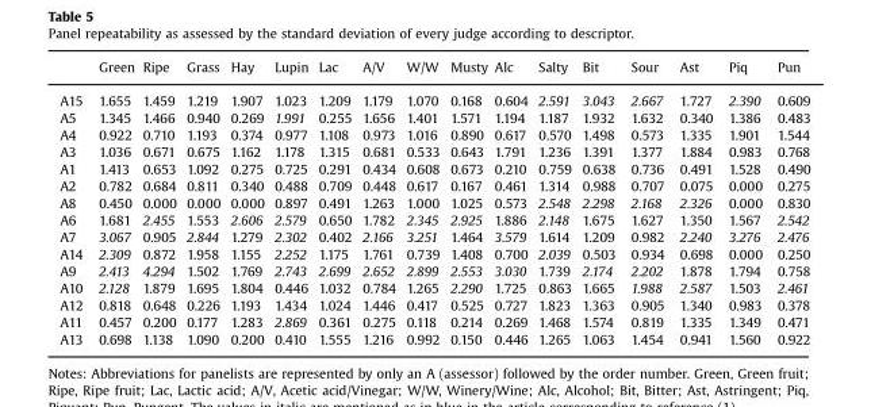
<table><thead><tr><td></td><td>Green</td><td>Ripe</td><td>Grass</td><td>Hay</td><td>Lupin</td><td>Lac</td><td>A/V</td><td>W/W</td><td>Musty</td><td>Alc</td><td>Salty</td><td>Bit</td><td>Sour</td><td>Ast</td><td>Piq</td><td>Pun</td></tr></thead><tbody><tr><td>A15</td><td>1.655</td><td>1.459</td><td>1.219</td><td>1.907</td><td>1.023</td><td>1.209</td><td>1.179</td><td>1.070</td><td>0.168</td><td>0.604</td><td>2.591</td><td>3.043</td><td>2.667</td><td>1.727</td><td>2.390</td><td>0.609</td></tr><tr><td>A5</td><td>1.345</td><td>1.466</td><td>0.940</td><td>0.269</td><td>1.991</td><td>0.255</td><td>1.656</td><td>1.401</td><td>1.571</td><td>1.194</td><td>1.187</td><td>1.932</td><td>1.632</td><td>0.340</td><td>1.386</td><td>0.483</td></tr><tr><td>A4</td><td>0.922</td><td>0.710</td><td>1.193</td><td>0.374</td><td>0.977</td><td>1.108</td><td>0.973</td><td>1.016</td><td>0.890</td><td>0.617</td><td>0.570</td><td>1.498</td><td>0.573</td><td>1.335</td><td>1.901</td><td>1.544</td></tr><tr><td>A3</td><td>1.036</td><td>0.671</td><td>0.675</td><td>1.162</td><td>1.178</td><td>1.315</td><td>0.681</td><td>0.533</td><td>0.643</td><td>1.791</td><td>1.236</td><td>1.391</td><td>1.377</td><td>1.884</td><td>0.983</td><td>0.768</td></tr><tr><td>A1</td><td>1.413</td><td>0.653</td><td>1.092</td><td>0.275</td><td>0.725</td><td>0.291</td><td>0.434</td><td>0.608</td><td>0.673</td><td>0.210</td><td>0.759</td><td>0.638</td><td>0.736</td><td>0.491</td><td>1.528</td><td>0.490</td></tr><tr><td>A2</td><td>0.782</td><td>0.684</td><td>0.811</td><td>0.340</td><td>0.488</td><td>0.709</td><td>0.448</td><td>0.617</td><td>0.167</td><td>0.461</td><td>1.314</td><td>0.988</td><td>0.707</td><td>0.075</td><td>0.000</td><td>0.275</td></tr><tr><td>A8</td><td>0.450</td><td>0.000</td><td>0.000</td><td>0.000</td><td>0.897</td><td>0.491</td><td>1.263</td><td>1.000</td><td>1.025</td><td>0.573</td><td>2.548</td><td>2.298</td><td>2.168</td><td>2.326</td><td>0.000</td><td>0.830</td></tr><tr><td>A6</td><td>1.681</td><td>2.455</td><td>1.553</td><td>2.606</td><td>2.579</td><td>0.650</td><td>1.782</td><td>2.345</td><td>2.925</td><td>1.886</td><td>2.148</td><td>1.675</td><td>1.627</td><td>1.350</td><td>1.567</td><td>2.542</td></tr><tr><td>A7</td><td>3.067</td><td>0.905</td><td>2.844</td><td>1.279</td><td>2.302</td><td>0.402</td><td>2.166</td><td>3.251</td><td>1.464</td><td>3.579</td><td>1.614</td><td>1.209</td><td>0.982</td><td>2.240</td><td>3.276</td><td>2.476</td></tr><tr><td>A14</td><td>2.309</td><td>0.872</td><td>1.958</td><td>1.155</td><td>2.252</td><td>1.175</td><td>1.761</td><td>0.739</td><td>1.408</td><td>0.700</td><td>2.039</td><td>0.503</td><td>0.934</td><td>0.698</td><td>0.000</td><td>0.250</td></tr><tr><td>A9</td><td>2.413</td><td>4.294</td><td>1.502</td><td>1.769</td><td>2.743</td><td>2.699</td><td>2.652</td><td>2.899</td><td>2.553</td><td>3.030</td><td>1.739</td><td>2.174</td><td>2.202</td><td>1.878</td><td>1.794</td><td>0.758</td></tr><tr><td>A10</td><td>2.128</td><td>1.879</td><td>1.695</td><td>1.804</td><td>0.446</td><td>1.032</td><td>0.784</td><td>1.265</td><td>2.290</td><td>1.725</td><td>0.863</td><td>1.665</td><td>1.988</td><td>2.587</td><td>1.503</td><td>2.461</td></tr><tr><td>A12</td><td>0.818</td><td>0.648</td><td>0.226</td><td>1.193</td><td>1.434</td><td>1.024</td><td>1.446</td><td>0.417</td><td>0.525</td><td>0.727</td><td>1.823</td><td>1.363</td><td>0.905</td><td>1.340</td><td>0.983</td><td>0.378</td></tr><tr><td>A11</td><td>0.457</td><td>0.200</td><td>0.177</td><td>1.283</td><td>2.869</td><td>0.361</td><td>0.275</td><td>0.118</td><td>0.214</td><td>0.269</td><td>1.468</td><td>1.574</td><td>0.819</td><td>1.335</td><td>1.349</td><td>0.471</td></tr><tr><td>A13</td><td>0.698</td><td>1.138</td><td>1.090</td><td>0.200</td><td>0.410</td><td>1.555</td><td>1.216</td><td>0.992</td><td>0.150</td><td>0.446</td><td>1.265</td><td>1.063</td><td>1.454</td><td>0.941</td><td>1.560</td><td>0.922</td></tr></tbody></table>